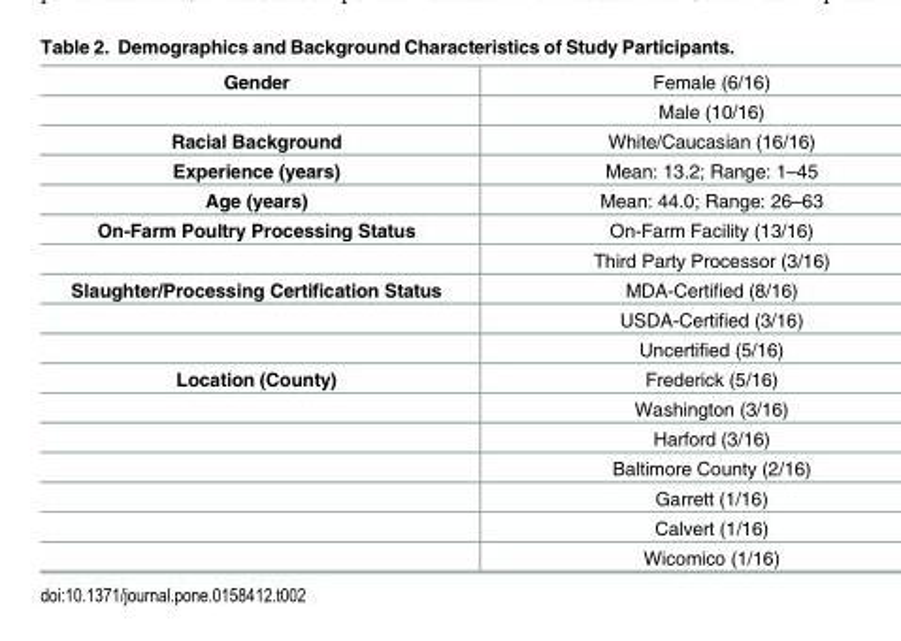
<table><tbody><tr><td rowspan="2">Gender</td><td>Female (6/16)</td></tr><tr><td>Male (10/16)</td></tr><tr><td>Racial Background</td><td>White/Caucasian (16/16)</td></tr><tr><td>Experience (years)</td><td>Mean: 13.2; Range: 1–45</td></tr><tr><td>Age (years)</td><td>Mean: 44.0; Range: 26–63</td></tr><tr><td rowspan="2">On-Farm Poultry Processing Status</td><td>On-Farm Facility (13/16)</td></tr><tr><td>Third Party Processor (3/16)</td></tr><tr><td rowspan="3">Slaughter/Processing Certification Status</td><td>MDA-Certified (8/16)</td></tr><tr><td>USDA-Certified (3/16)</td></tr><tr><td>Uncertified (5/16)</td></tr><tr><td rowspan="7">Location (County)</td><td>Frederick (5/16)</td></tr><tr><td>Washington (3/16)</td></tr><tr><td>Harford (3/16)</td></tr><tr><td>Baltimore County (2/16)</td></tr><tr><td>Garrett (1/16)</td></tr><tr><td>Calvert (1/16)</td></tr><tr><td>Wicomico (1/16)</td></tr></tbody></table>